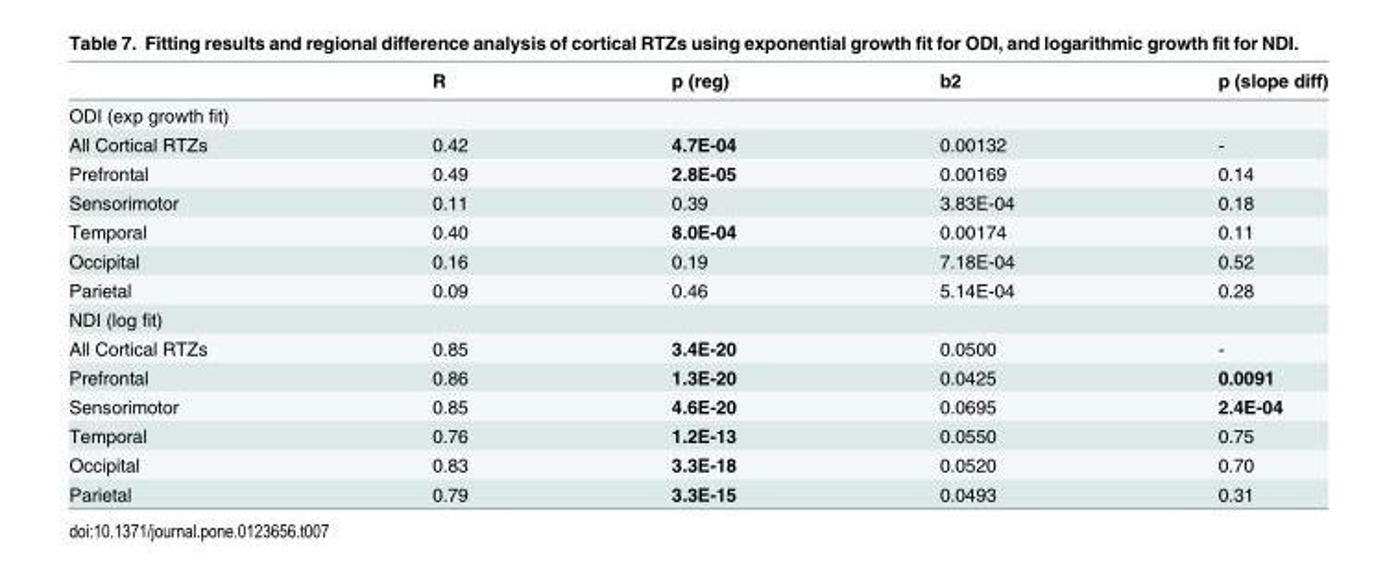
<table><thead><tr><td></td><td>R</td><td>p (reg)</td><td>b2</td><td>p (slope diff)</td></tr></thead><tbody><tr><td colspan="5">ODI (exp growth fit)</td></tr><tr><td>All Cortical RTZs</td><td>0.42</td><td>4.7E-04</td><td>0.00132</td><td>-</td></tr><tr><td>Prefrontal</td><td>0.49</td><td>2.8E-05</td><td>0.00169</td><td>0.14</td></tr><tr><td>Sensorimotor</td><td>0.11</td><td>0.39</td><td>3.83E-04</td><td>0.18</td></tr><tr><td>Temporal</td><td>0.40</td><td>8.0E-04</td><td>0.00174</td><td>0.11</td></tr><tr><td>Occipital</td><td>0.16</td><td>0.19</td><td>7.18E-04</td><td>0.52</td></tr><tr><td>Parietal</td><td>0.09</td><td>0.46</td><td>5.14E-04</td><td>0.28</td></tr><tr><td colspan="5">NDI (log fit)</td></tr><tr><td>All Cortical RTZs</td><td>0.85</td><td>3.4E-20</td><td>0.0500</td><td>-</td></tr><tr><td>Prefrontal</td><td>0.86</td><td>1.3E-20</td><td>0.0425</td><td>0.0091</td></tr><tr><td>Sensorimotor</td><td>0.85</td><td>4.6E-20</td><td>0.0695</td><td>2.4E-04</td></tr><tr><td>Temporal</td><td>0.76</td><td>1.2E-13</td><td>0.0550</td><td>0.75</td></tr><tr><td>Occipital</td><td>0.83</td><td>3.3E-18</td><td>0.0520</td><td>0.70</td></tr><tr><td>Parietal</td><td>0.79</td><td>3.3E-15</td><td>0.0493</td><td>0.31</td></tr></tbody></table>